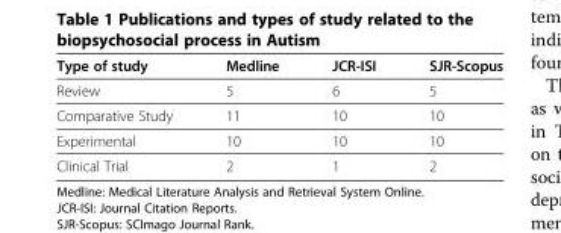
<table><thead><tr><td>Type of study</td><td>Medline</td><td>JCR-ISI</td><td>SJR-Scopus</td></tr></thead><tbody><tr><td>Review</td><td>5</td><td>6</td><td>5</td></tr><tr><td>Comparative Study</td><td>11</td><td>10</td><td>10</td></tr><tr><td>Experimental</td><td>10</td><td>10</td><td>10</td></tr><tr><td>Clinical Trial</td><td>2</td><td>1</td><td>2</td></tr></tbody></table>